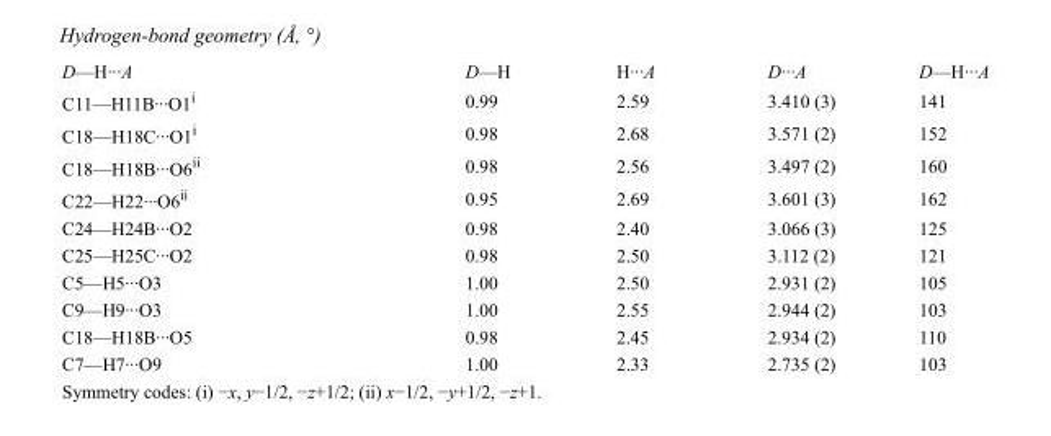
<table><tbody><tr><td>D—H···A</td><td>D—H</td><td>H···A</td><td>D···A</td><td>D—H···A</td></tr><tr><td>C11—H11B···O1<sup>i</sup></td><td>0.99</td><td>2.59</td><td>3.410 (3)</td><td>141</td></tr><tr><td>C18—H18C···O1<sup>i</sup></td><td>0.98</td><td>2.68</td><td>3.571 (2)</td><td>152</td></tr><tr><td>C18—H18B···O6<sup>ii</sup></td><td>0.98</td><td>2.56</td><td>3.497 (2)</td><td>160</td></tr><tr><td>C22—H22···O6<sup>ii</sup></td><td>0.95</td><td>2.69</td><td>3.601 (3)</td><td>162</td></tr><tr><td>C24—H24B···O2</td><td>0.98</td><td>2.40</td><td>3.066 (3)</td><td>125</td></tr><tr><td>C25—H25C···O2</td><td>0.98</td><td>2.50</td><td>3.112 (2)</td><td>121</td></tr><tr><td>C5—H5···O3</td><td>1.00</td><td>2.50</td><td>2.931 (2)</td><td>105</td></tr><tr><td>C9—H9···O3</td><td>1.00</td><td>2.55</td><td>2.944 (2)</td><td>103</td></tr><tr><td>C18—H18B···O5</td><td>0.98</td><td>2.45</td><td>2.934 (2)</td><td>110</td></tr><tr><td>C7—H7···O9</td><td>1.00</td><td>2.33</td><td>2.735 (2)</td><td>103</td></tr></tbody></table>